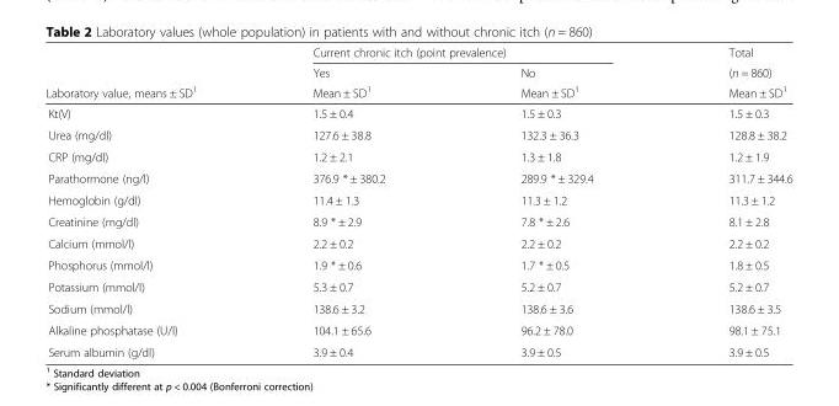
<table><thead><tr><td rowspan="3">Laboratory value, means ± SD<sup>1</sup></td><td colspan="2">Current chronic itch (point prevalence)</td><td rowspan="3">Total (n = 860) Mean ± SD<sup>1</sup></td></tr><tr><td rowspan="2">Yes Mean ± SD<sup>1</sup></td><td rowspan="2">No Mean ± SD<sup>1</sup></td></tr><tr></tr></thead><tbody><tr><td>Kt(V)</td><td>1.5 ± 0.4</td><td>1.5 ± 0.3</td><td>1.5 ± 0.3</td></tr><tr><td>Urea (mg/dl)</td><td>127.6 ± 38.8</td><td>132.3 ± 36.3</td><td>128.8 ± 38.2</td></tr><tr><td>CRP (mg/dl)</td><td>1.2 ± 2.1</td><td>1.3 ± 1.8</td><td>1.2 ± 1.9</td></tr><tr><td>Parathormone (ng/l)</td><td>376.9 * ± 380.2</td><td>289.9 * ± 329.4</td><td>311.7 ± 344.6</td></tr><tr><td>Hemoglobin (g/dl)</td><td>11.4 ± 1.3</td><td>11.3 ± 1.2</td><td>11.3 ± 1.2</td></tr><tr><td>Creatinine (mg/dl)</td><td>8.9 * ± 2.9</td><td>7.8 * ± 2.6</td><td>8.1 ± 2.8</td></tr><tr><td>Calcium (mmol/l)</td><td>2.2 ± 0.2</td><td>2.2 ± 0.2</td><td>2.2 ± 0.2</td></tr><tr><td>Phosphorus (mmol/l)</td><td>1.9 * ± 0.6</td><td>1.7 * ± 0.5</td><td>1.8 ± 0.5</td></tr><tr><td>Potassium (mmol/l)</td><td>5.3 ± 0.7</td><td>5.2 ± 0.7</td><td>5.2 ± 0.7</td></tr><tr><td>Sodium (mmol/l)</td><td>138.6 ± 3.2</td><td>138.6 ± 3.6</td><td>138.6 ± 3.5</td></tr><tr><td>Alkaline phosphatase (U/l)</td><td>104.1 ± 65.6</td><td>96.2 ± 78.0</td><td>98.1 ± 75.1</td></tr><tr><td>Serum albumin (g/dl)</td><td>3.9 ± 0.4</td><td>3.9 ± 0.5</td><td>3.9 ± 0.5</td></tr></tbody></table>